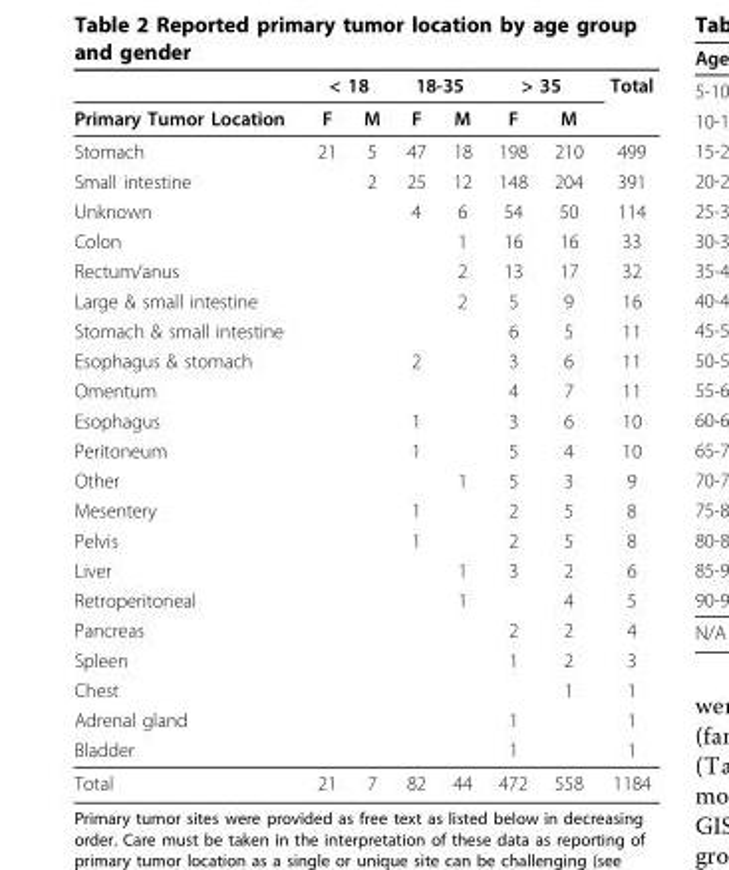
<table><thead><tr><td rowspan="2">Primary Tumor Location</td><td colspan="2">&lt; 18</td><td colspan="2">18-35</td><td colspan="2">&gt; 35</td><td rowspan="2">Total</td></tr><tr><td>F</td><td>M</td><td>F</td><td>M</td><td>F</td><td>M</td></tr></thead><tbody><tr><td>Stomach</td><td>21</td><td>5</td><td>47</td><td>18</td><td>198</td><td>210</td><td>499</td></tr><tr><td>Small intestine</td><td></td><td>2</td><td>25</td><td>12</td><td>148</td><td>204</td><td>391</td></tr><tr><td>Unknown</td><td></td><td></td><td>4</td><td>6</td><td>54</td><td>50</td><td>114</td></tr><tr><td>Colon</td><td></td><td></td><td></td><td>1</td><td>16</td><td>16</td><td>33</td></tr><tr><td>Rectum/anus</td><td></td><td></td><td></td><td>2</td><td>13</td><td>17</td><td>32</td></tr><tr><td>Large &amp; small intestine</td><td></td><td></td><td></td><td>2</td><td>5</td><td>9</td><td>16</td></tr><tr><td>Stomach &amp; small intestine</td><td></td><td></td><td></td><td></td><td>6</td><td>5</td><td>11</td></tr><tr><td>Esophagus &amp; stomach</td><td></td><td></td><td>2</td><td></td><td>3</td><td>6</td><td>11</td></tr><tr><td>Omentum</td><td></td><td></td><td></td><td></td><td>4</td><td>7</td><td>11</td></tr><tr><td>Esophagus</td><td></td><td></td><td>1</td><td></td><td>3</td><td>6</td><td>10</td></tr><tr><td>Peritoneum</td><td></td><td></td><td>1</td><td></td><td>5</td><td>4</td><td>10</td></tr><tr><td>Other</td><td></td><td></td><td></td><td>1</td><td>5</td><td>3</td><td>9</td></tr><tr><td>Mesentery</td><td></td><td></td><td>1</td><td></td><td>2</td><td>5</td><td>8</td></tr><tr><td>Pelvis</td><td></td><td></td><td>1</td><td></td><td>2</td><td>5</td><td>8</td></tr><tr><td>Liver</td><td></td><td></td><td></td><td>1</td><td>3</td><td>2</td><td>6</td></tr><tr><td>Retroperitoneal</td><td></td><td></td><td></td><td>1</td><td></td><td>4</td><td>5</td></tr><tr><td>Pancreas</td><td></td><td></td><td></td><td></td><td>2</td><td>2</td><td>4</td></tr><tr><td>Spleen</td><td></td><td></td><td></td><td></td><td>1</td><td>2</td><td>3</td></tr><tr><td>Chest</td><td></td><td></td><td></td><td></td><td></td><td>1</td><td>1</td></tr><tr><td>Adrenal gland</td><td></td><td></td><td></td><td></td><td>1</td><td></td><td>1</td></tr><tr><td>Bladder</td><td></td><td></td><td></td><td></td><td>1</td><td></td><td>1</td></tr><tr><td>Total</td><td>21</td><td>7</td><td>82</td><td>44</td><td>472</td><td>558</td><td>1184</td></tr></tbody></table>